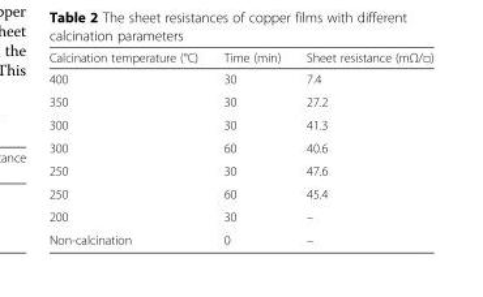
<table><thead><tr><td>Calcination temperature (°C)</td><td>Time (min)</td><td>Sheet resistance (mΩ/□)</td></tr></thead><tbody><tr><td>400</td><td>30</td><td>7.4</td></tr><tr><td>350</td><td>30</td><td>27.2</td></tr><tr><td>300</td><td>30</td><td>41.3</td></tr><tr><td>300</td><td>60</td><td>40.6</td></tr><tr><td>250</td><td>30</td><td>47.6</td></tr><tr><td>250</td><td>60</td><td>45.4</td></tr><tr><td>200</td><td>30</td><td>–</td></tr><tr><td>Non-calcination</td><td>0</td><td>–</td></tr></tbody></table>